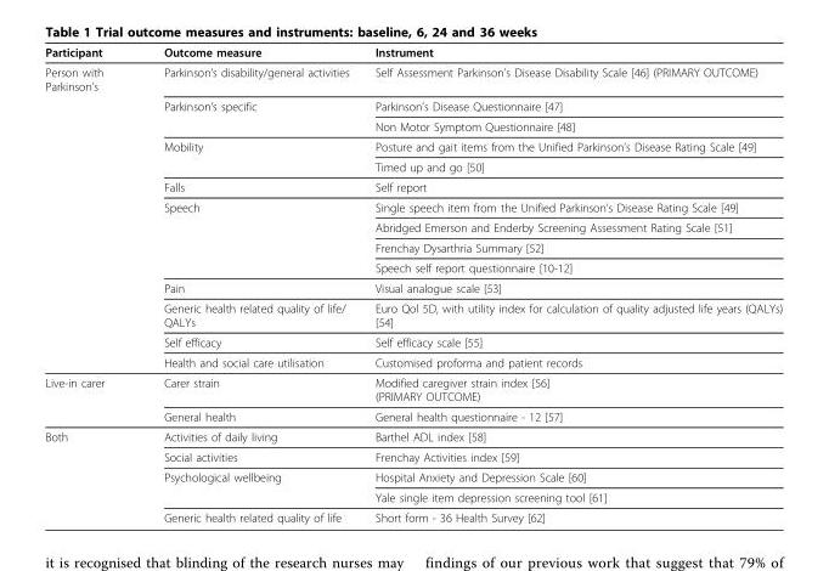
<table><thead><tr><td>Participant</td><td>Outcome measure</td><td>Instrument</td></tr></thead><tbody><tr><td rowspan="14">Person with Parkinson’s</td><td>Parkinson’s disability/general activities</td><td>Self Assessment Parkinson’s Disease Disability Scale [46] (PRIMARY OUTCOME)</td></tr><tr><td>Parkinson’s specific</td><td>Parkinson’s Disease Questionnaire [47]</td></tr><tr><td></td><td>Non Motor Symptom Questionnaire [48]</td></tr><tr><td>Mobility</td><td>Posture and gait items from the Unified Parkinson’s Disease Rating Scale [49]</td></tr><tr><td></td><td>Timed up and go [50]</td></tr><tr><td>Falls</td><td>Self report</td></tr><tr><td>Speech</td><td>Single speech item from the Unified Parkinson’s Disease Rating Scale [49]</td></tr><tr><td></td><td>Abridged Emerson and Enderby Screening Assessment Rating Scale [51]</td></tr><tr><td></td><td>Frenchay Dysarthria Summary [52]</td></tr><tr><td></td><td>Speech self report questionnaire [10-12]</td></tr><tr><td>Pain</td><td>Visual analogue scale [53]</td></tr><tr><td>Generic health related quality of life/ QALYs</td><td>Euro Qol 5D, with utility index for calculation of quality adjusted life years (QALYs) [54]</td></tr><tr><td>Self efficacy</td><td>Self efficacy scale [55]</td></tr><tr><td>Health and social care utilisation</td><td>Customised proforma and patient records</td></tr><tr><td rowspan="2">Live-in carer</td><td>Carer strain</td><td>Modified caregiver strain index [56] (PRIMARY OUTCOME)</td></tr><tr><td>General health</td><td>General health questionnaire - 12 [57]</td></tr><tr><td rowspan="5">Both</td><td>Activities of daily living</td><td>Barthel ADL index [58]</td></tr><tr><td>Social activities</td><td>Frenchay Activities index [59]</td></tr><tr><td>Psychological wellbeing</td><td>Hospital Anxiety and Depression Scale [60]</td></tr><tr><td></td><td>Yale single item depression screening tool [61]</td></tr><tr><td>Generic health related quality of life</td><td>Short form - 36 Health Survey [62]</td></tr></tbody></table>